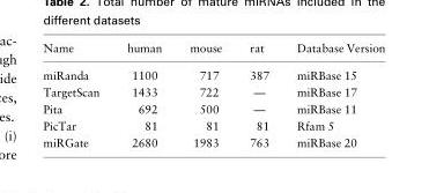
<table><thead><tr><td>Name</td><td>human</td><td>mouse</td><td>rat</td><td>Database Version</td></tr></thead><tbody><tr><td>miRanda</td><td>1100</td><td>717</td><td>387</td><td>miRBase 15</td></tr><tr><td>TargetScan</td><td>1433</td><td>722</td><td>—</td><td>miRBase 17</td></tr><tr><td>Pita</td><td>692</td><td>500</td><td>—</td><td>miRBase 11</td></tr><tr><td>PicTar</td><td>81</td><td>81</td><td>81</td><td>Rfam 5</td></tr><tr><td>miRGate</td><td>2680</td><td>1983</td><td>763</td><td>miRBase 20</td></tr></tbody></table>